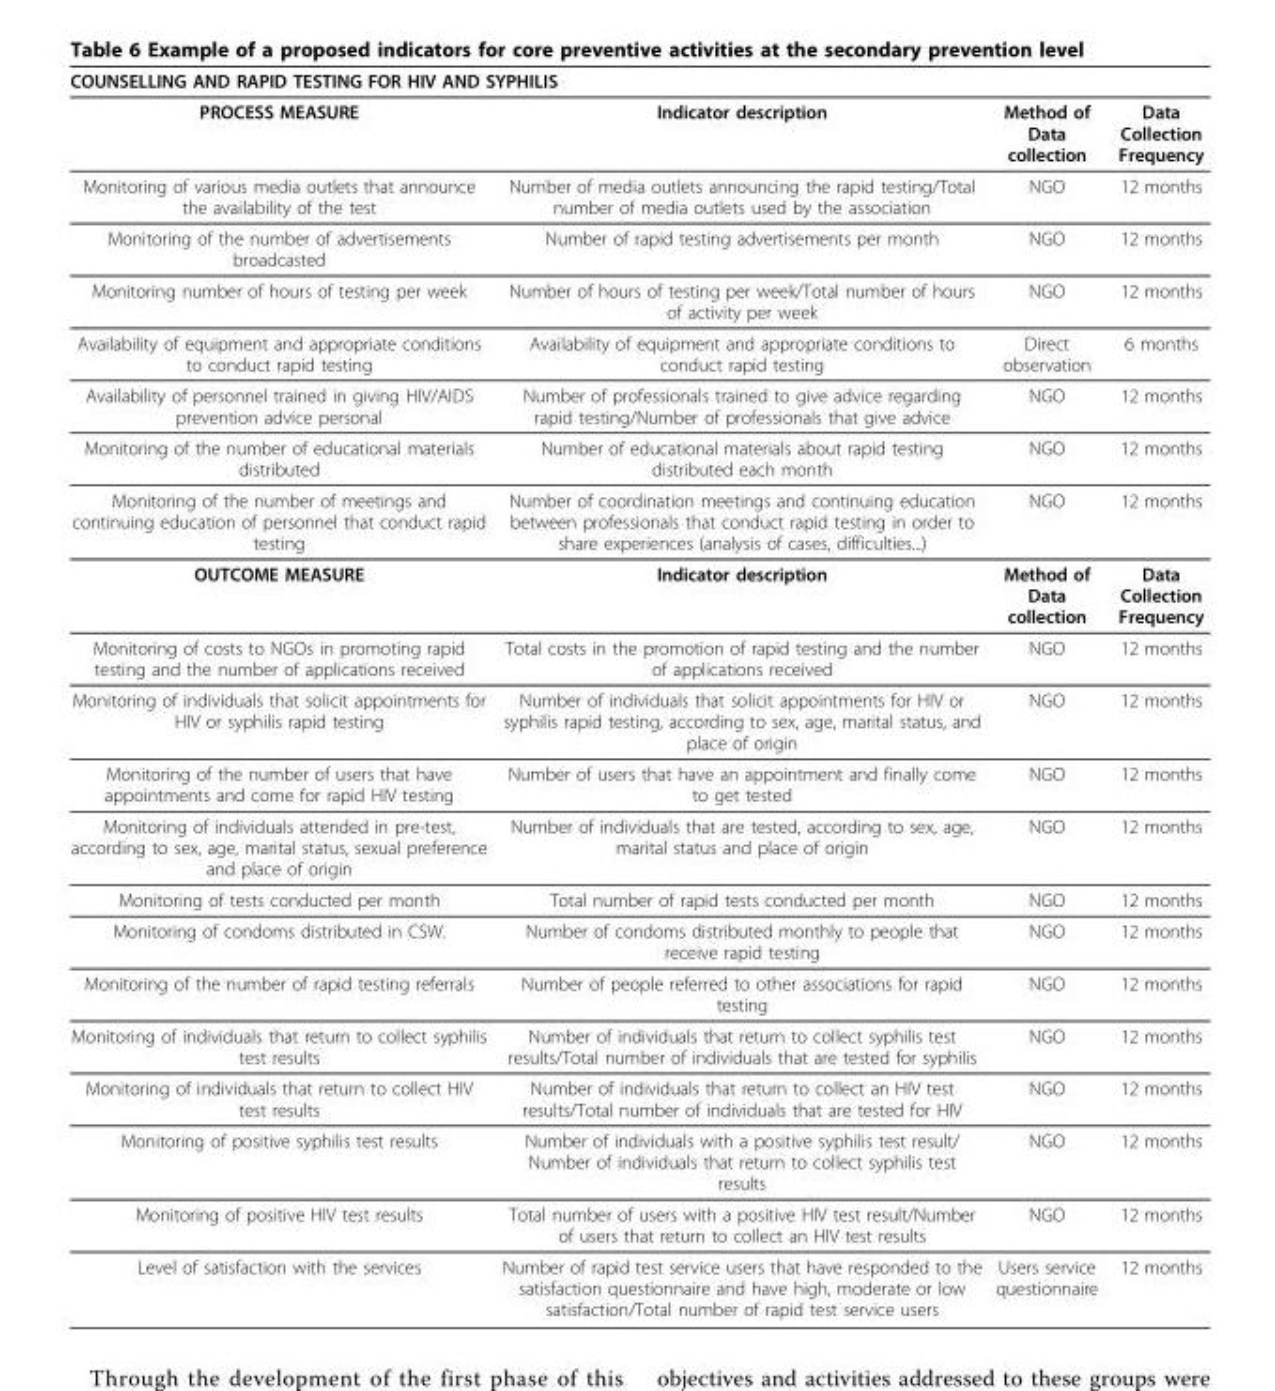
<table><thead><tr><td colspan="4">COUNSELLING AND RAPID TESTING FOR HIV AND SYPHILIS</td></tr><tr><td>PROCESS MEASURE</td><td>Indicator description</td><td>Method of Data collection</td><td>Data Collection Frequency</td></tr></thead><tbody><tr><td>Monitoring of various media outlets that announce the availability of the test</td><td>Number of media outlets announcing the rapid testing/Total number of media outlets used by the association</td><td>NGO</td><td>12 months</td></tr><tr><td>Monitoring of the number of advertisements broadcasted</td><td>Number of rapid testing advertisements per month</td><td>NGO</td><td>12 months</td></tr><tr><td>Monitoring number of hours of testing per week</td><td>Number of hours of testing per week/Total number of hours of activity per week</td><td>NGO</td><td>12 months</td></tr><tr><td>Availability of equipment and appropriate conditions to conduct rapid testing</td><td>Availability of equipment and appropriate conditions to conduct rapid testing</td><td>Direct observation</td><td>6 months</td></tr><tr><td>Availability of personnel trained in giving HIV/AIDS prevention advice personal</td><td>Number of professionals trained to give advice regarding rapid testing/Number of professionals that give advice</td><td>NGO</td><td>12 months</td></tr><tr><td>Monitoring of the number of educational materials distributed</td><td>Number of educational materials about rapid testing distributed each month</td><td>NGO</td><td>12 months</td></tr><tr><td>Monitoring of the number of meetings and continuing education of personnel that conduct rapid testing</td><td>Number of coordination meetings and continuing education between professionals that conduct rapid testing in order to share experiences (analysis of cases, difficulties...)</td><td>NGO</td><td>12 months</td></tr><tr><td>OUTCOME MEASURE</td><td>Indicator description</td><td>Method of Data collection</td><td>Data Collection Frequency</td></tr><tr><td>Monitoring of costs to NGOs in promoting rapid testing and the number of applications received</td><td>Total costs in the promotion of rapid testing and the number of applications received</td><td>NGO</td><td>12 months</td></tr><tr><td>Monitoring of individuals that solicit appointments for HIV or syphilis rapid testing</td><td>Number of individuals that solicit appointments for HIV or syphilis rapid testing, according to sex, age, marital status, and place of origin</td><td>NGO</td><td>12 months</td></tr><tr><td>Monitoring of the number of users that have appointments and come for rapid HIV testing</td><td>Number of users that have an appointment and finally come to get tested</td><td>NGO</td><td>12 months</td></tr><tr><td>Monitoring of individuals attended in pre-test, according to sex, age, marital status, sexual preference and place of origin</td><td>Number of individuals that are tested, according to sex, age, marital status and place of origin</td><td>NGO</td><td>12 months</td></tr><tr><td>Monitoring of tests conducted per month</td><td>Total number of rapid tests conducted per month</td><td>NGO</td><td>12 months</td></tr><tr><td>Monitoring of condoms distributed in CSW.</td><td>Number of condoms distributed monthly to people that receive rapid testing</td><td>NGO</td><td>12 months</td></tr><tr><td>Monitoring of the number of rapid testing referrals</td><td>Number of people referred to other associations for rapid testing</td><td>NGO</td><td>12 months</td></tr><tr><td>Monitoring of individuals that return to collect syphilis test results</td><td>Number of individuals that return to collect syphilis test results/Total number of individuals that are tested for syphilis</td><td>NGO</td><td>12 months</td></tr><tr><td>Monitoring of individuals that return to collect HIV test results</td><td>Number of individuals that return to collect an HIV test results/Total number of individuals that are tested for HIV</td><td>NGO</td><td>12 months</td></tr><tr><td>Monitoring of positive syphilis test results</td><td>Number of individuals with a positive syphilis test result/ Number of individuals that return to collect syphilis test results</td><td>NGO</td><td>12 months</td></tr><tr><td>Monitoring of positive HIV test results</td><td>Total number of users with a positive HIV test result/Number of users that return to collect an HIV test results</td><td>NGO</td><td>12 months</td></tr><tr><td>Level of satisfaction with the services</td><td>Number of rapid test service users that have responded to the satisfaction questionnaire and have high, moderate or low satisfaction/Total number of rapid test service users</td><td>Users service questionnaire</td><td>12 months</td></tr></tbody></table>